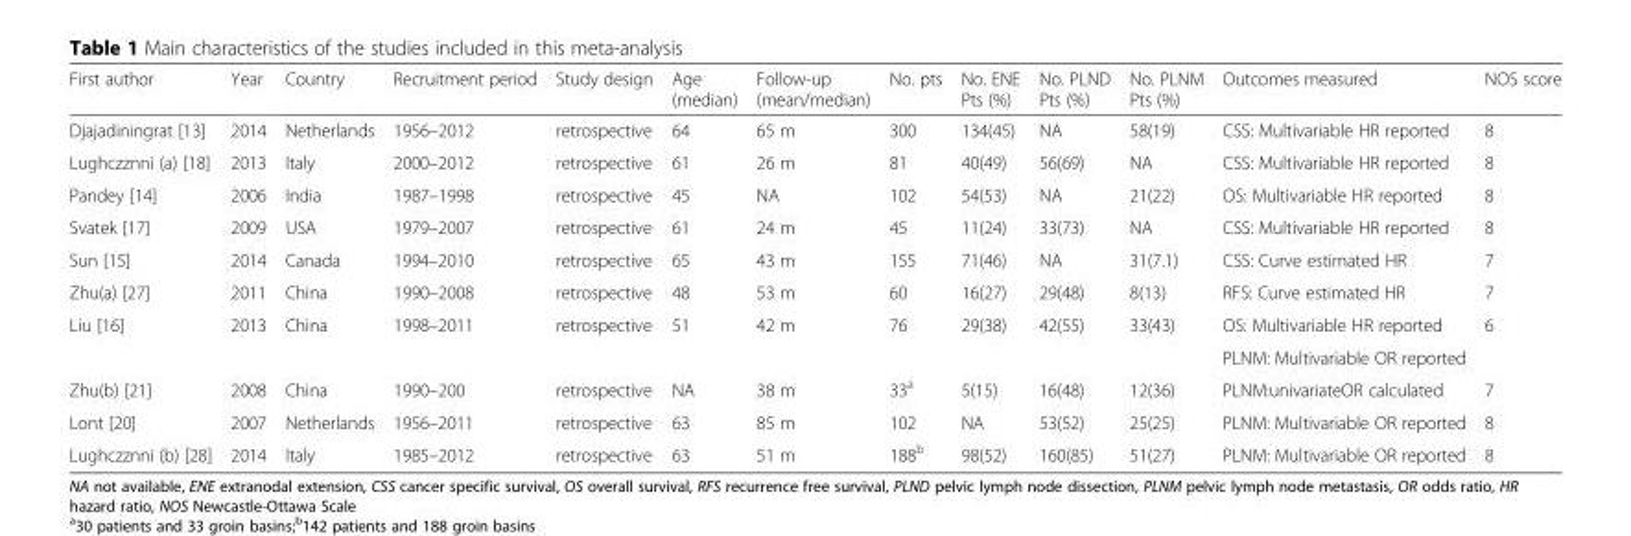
<table><thead><tr><td>First author</td><td>Year</td><td>Country</td><td>Recruitment period</td><td>Study design</td><td>Age (median)</td><td>Follow-up (mean/median)</td><td>No. pts</td><td>No. ENE Pts (%)</td><td>No. PLND Pts (%)</td><td>No. PLNM Pts (%)</td><td>Outcomes measured</td><td>NOS score</td></tr></thead><tbody><tr><td>Djajadiningrat [13]</td><td>2014</td><td>Netherlands</td><td>1956–2012</td><td>retrospective</td><td>64</td><td>65 m</td><td>300</td><td>134(45)</td><td>NA</td><td>58(19)</td><td>CSS: Multivariable HR reported</td><td>8</td></tr><tr><td>Lughczznni (a) [18]</td><td>2013</td><td>Italy</td><td>2000–2012</td><td>retrospective</td><td>61</td><td>26 m</td><td>81</td><td>40(49)</td><td>56(69)</td><td>NA</td><td>CSS: Multivariable HR reported</td><td>8</td></tr><tr><td>Pandey [14]</td><td>2006</td><td>India</td><td>1987–1998</td><td>retrospective</td><td>45</td><td>NA</td><td>102</td><td>54(53)</td><td>NA</td><td>21(22)</td><td>OS: Multivariable HR reported</td><td>8</td></tr><tr><td>Svatek [17]</td><td>2009</td><td>USA</td><td>1979–2007</td><td>retrospective</td><td>61</td><td>24 m</td><td>45</td><td>11(24)</td><td>33(73)</td><td>NA</td><td>CSS: Multivariable HR reported</td><td>8</td></tr><tr><td>Sun [15]</td><td>2014</td><td>Canada</td><td>1994–2010</td><td>retrospective</td><td>65</td><td>43 m</td><td>155</td><td>71(46)</td><td>NA</td><td>31(7.1)</td><td>CSS: Curve estimated HR</td><td>7</td></tr><tr><td>Zhu(a) [27]</td><td>2011</td><td>China</td><td>1990–2008</td><td>retrospective</td><td>48</td><td>53 m</td><td>60</td><td>16(27)</td><td>29(48)</td><td>8(13)</td><td>RFS: Curve estimated HR</td><td>7</td></tr><tr><td rowspan="2">Liu [16]</td><td rowspan="2">2013</td><td rowspan="2">China</td><td rowspan="2">1998–2011</td><td rowspan="2">retrospective</td><td rowspan="2">51</td><td rowspan="2">42 m</td><td rowspan="2">76</td><td rowspan="2">29(38)</td><td rowspan="2">42(55)</td><td rowspan="2">33(43)</td><td>OS: Multivariable HR reported</td><td rowspan="2">6</td></tr><tr><td>PLNM: Multivariable OR reported</td></tr><tr><td>Zhu(b) [21]</td><td>2008</td><td>China</td><td>1990–200</td><td>retrospective</td><td>NA</td><td>38 m</td><td>33<sup>a</sup></td><td>5(15)</td><td>16(48)</td><td>12(36)</td><td>PLNM:univariateOR calculated</td><td>7</td></tr><tr><td>Lont [20]</td><td>2007</td><td>Netherlands</td><td>1956–2011</td><td>retrospective</td><td>63</td><td>85 m</td><td>102</td><td>NA</td><td>53(52)</td><td>25(25)</td><td>PLNM: Multivariable OR reported</td><td>8</td></tr><tr><td>Lughczznni (b) [28]</td><td>2014</td><td>Italy</td><td>1985–2012</td><td>retrospective</td><td>63</td><td>51 m</td><td>188<sup>b</sup></td><td>98(52)</td><td>160(85)</td><td>51(27)</td><td>PLNM: Multivariable OR reported</td><td>8</td></tr></tbody></table>